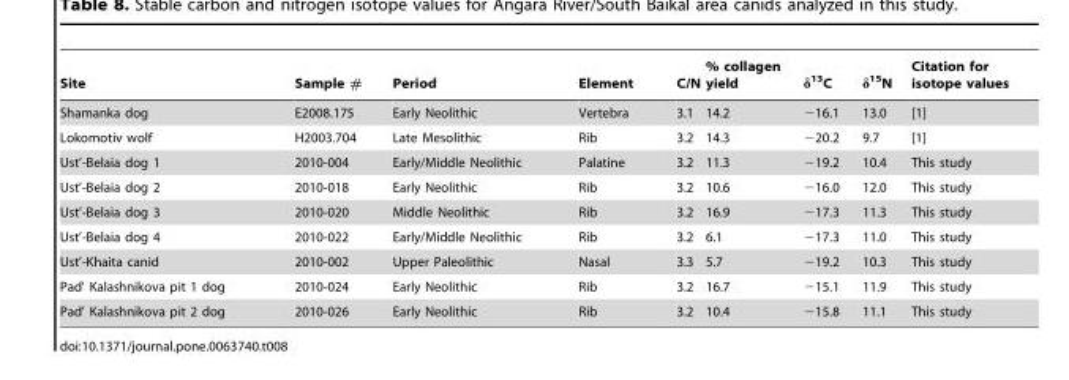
<table><thead><tr><td>Site</td><td>Sample #</td><td>Period</td><td>Element</td><td>C/N</td><td>% collagen yield</td><td>δ<sup>13</sup>C</td><td>δ<sup>15</sup>N</td><td>Citation for isotope values</td></tr></thead><tbody><tr><td>Shamanka dog</td><td>E2008.175</td><td>Early Neolithic</td><td>Vertebra</td><td>3.1</td><td>14.2</td><td>−16.1</td><td>13.0</td><td>[1]</td></tr><tr><td>Lokomotiv wolf</td><td>H2003.704</td><td>Late Mesolithic</td><td>Rib</td><td>3.2</td><td>14.3</td><td>−20.2</td><td>9.7</td><td>[1]</td></tr><tr><td>Ust’-Belaia dog 1</td><td>2010-004</td><td>Early/Middle Neolithic</td><td>Palatine</td><td>3.2</td><td>11.3</td><td>−19.2</td><td>10.4</td><td>This study</td></tr><tr><td>Ust’-Belaia dog 2</td><td>2010-018</td><td>Early Neolithic</td><td>Rib</td><td>3.2</td><td>10.6</td><td>−16.0</td><td>12.0</td><td>This study</td></tr><tr><td>Ust’-Belaia dog 3</td><td>2010-020</td><td>Middle Neolithic</td><td>Rib</td><td>3.2</td><td>16.9</td><td>−17.3</td><td>11.3</td><td>This study</td></tr><tr><td>Ust’-Belaia dog 4</td><td>2010-022</td><td>Early/Middle Neolithic</td><td>Rib</td><td>3.2</td><td>6.1</td><td>−17.3</td><td>11.0</td><td>This study</td></tr><tr><td>Ust’-Khaita canid</td><td>2010-002</td><td>Upper Paleolithic</td><td>Nasal</td><td>3.3</td><td>5.7</td><td>−19.2</td><td>10.3</td><td>This study</td></tr><tr><td>Pad’ Kalashnikova pit 1 dog</td><td>2010-024</td><td>Early Neolithic</td><td>Rib</td><td>3.2</td><td>16.7</td><td>−15.1</td><td>11.9</td><td>This study</td></tr><tr><td>Pad’ Kalashnikova pit 2 dog</td><td>2010-026</td><td>Early Neolithic</td><td>Rib</td><td>3.2</td><td>10.4</td><td>−15.8</td><td>11.1</td><td>This study</td></tr></tbody></table>